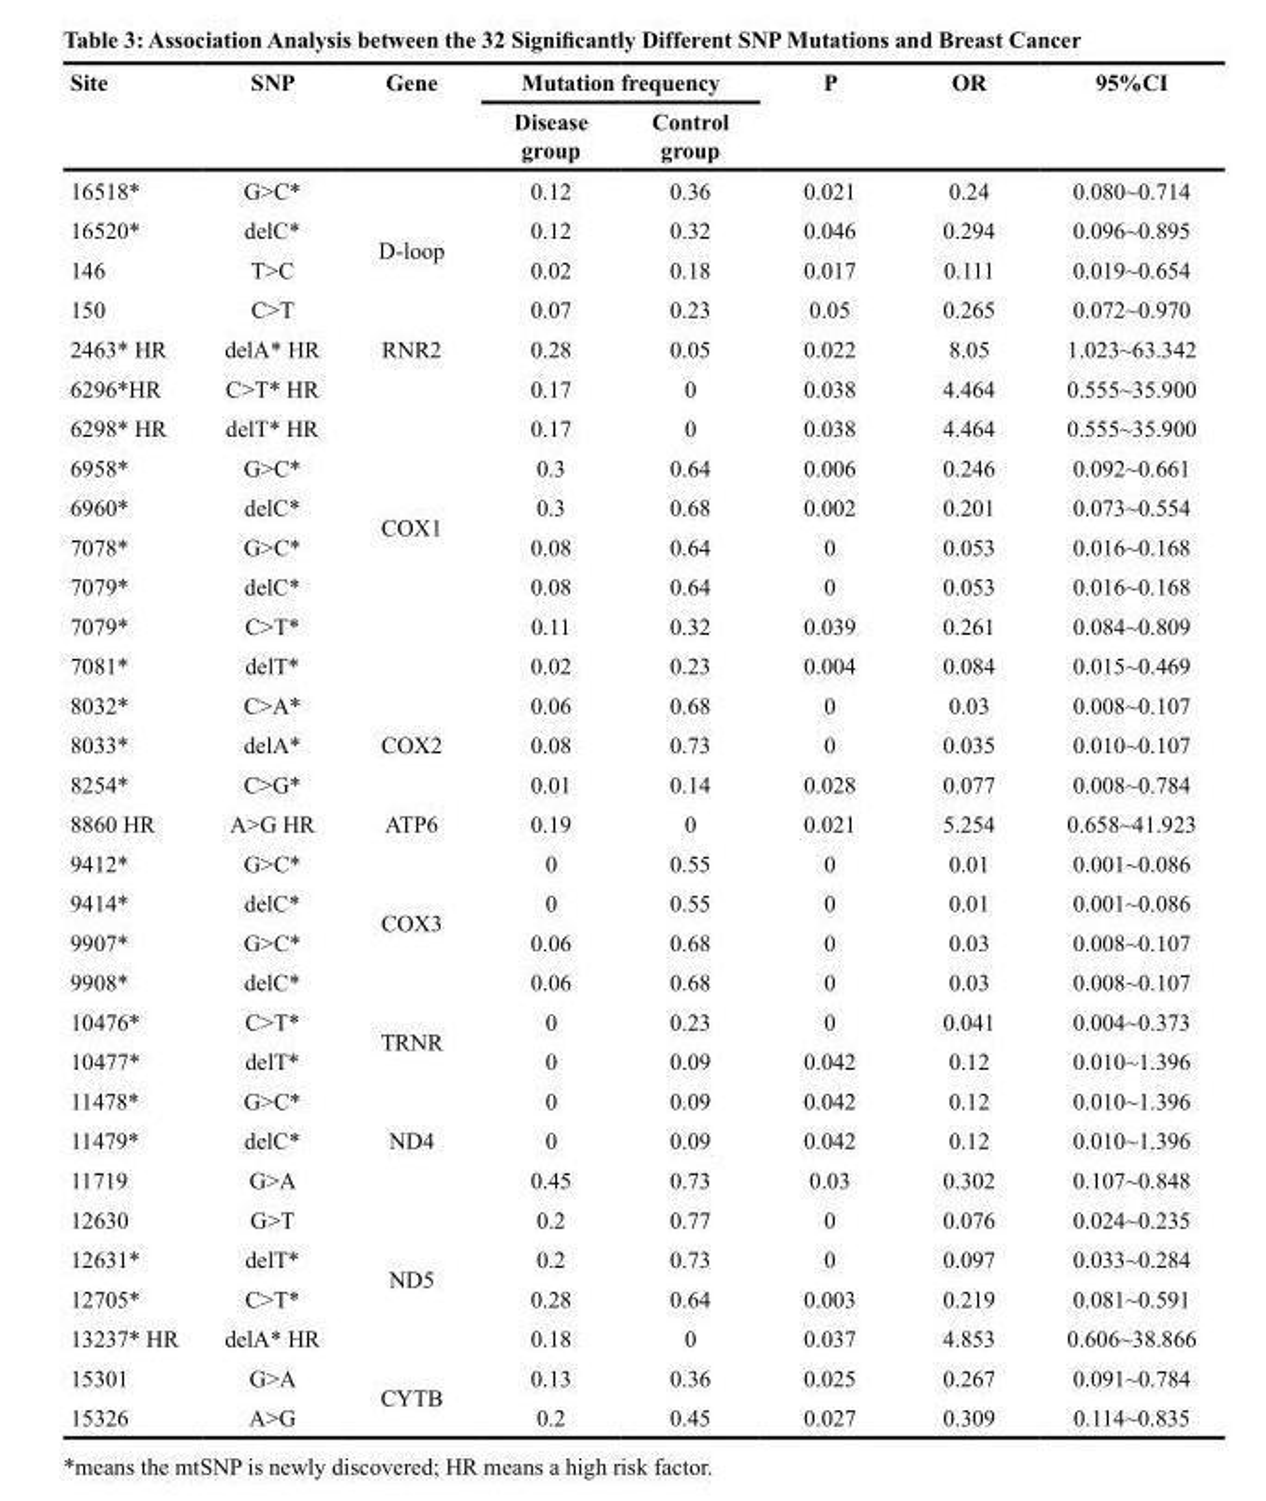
<table><thead><tr><td rowspan="2">Site</td><td rowspan="2">SNP</td><td rowspan="2">Gene</td><td colspan="2">Mutation frequency</td><td rowspan="2">P</td><td rowspan="2">OR</td><td rowspan="2">95%CI</td></tr><tr><td>Disease group</td><td>Control group</td></tr></thead><tbody><tr><td>16518*</td><td>G&gt;C*</td><td rowspan="4">D-loop</td><td>0.12</td><td>0.36</td><td>0.021</td><td>0.24</td><td>0.080~0.714</td></tr><tr><td>16520*</td><td>delC*</td><td>0.12</td><td>0.32</td><td>0.046</td><td>0.294</td><td>0.096~0.895</td></tr><tr><td>146</td><td>T&gt;C</td><td>0.02</td><td>0.18</td><td>0.017</td><td>0.111</td><td>0.019~0.654</td></tr><tr><td>150</td><td>C&gt;T</td><td>0.07</td><td>0.23</td><td>0.05</td><td>0.265</td><td>0.072~0.970</td></tr><tr><td>2463* HR</td><td>delA* HR</td><td>RNR2</td><td>0.28</td><td>0.05</td><td>0.022</td><td>8.05</td><td>1.023~63.342</td></tr><tr><td>6296*HR</td><td>C&gt;T* HR</td><td rowspan="8">COX1</td><td>0.17</td><td>0</td><td>0.038</td><td>4.464</td><td>0.555~35.900</td></tr><tr><td>6298* HR</td><td>delT* HR</td><td>0.17</td><td>0</td><td>0.038</td><td>4.464</td><td>0.555~35.900</td></tr><tr><td>6958*</td><td>G&gt;C*</td><td>0.3</td><td>0.64</td><td>0.006</td><td>0.246</td><td>0.092~0.661</td></tr><tr><td>6960*</td><td>delC*</td><td>0.3</td><td>0.68</td><td>0.002</td><td>0.201</td><td>0.073~0.554</td></tr><tr><td>7078*</td><td>G&gt;C*</td><td>0.08</td><td>0.64</td><td>0</td><td>0.053</td><td>0.016~0.168</td></tr><tr><td>7079*</td><td>delC*</td><td>0.08</td><td>0.64</td><td>0</td><td>0.053</td><td>0.016~0.168</td></tr><tr><td>7079*</td><td>C&gt;T*</td><td>0.11</td><td>0.32</td><td>0.039</td><td>0.261</td><td>0.084~0.809</td></tr><tr><td>7081*</td><td>delT*</td><td>0.02</td><td>0.23</td><td>0.004</td><td>0.084</td><td>0.015~0.469</td></tr><tr><td>8032*</td><td>C&gt;A*</td><td rowspan="3">COX2</td><td>0.06</td><td>0.68</td><td>0</td><td>0.03</td><td>0.008~0.107</td></tr><tr><td>8033*</td><td>delA*</td><td>0.08</td><td>0.73</td><td>0</td><td>0.035</td><td>0.010~0.107</td></tr><tr><td>8254*</td><td>C&gt;G*</td><td>0.01</td><td>0.14</td><td>0.028</td><td>0.077</td><td>0.008~0.784</td></tr><tr><td>8860 HR</td><td>A&gt;G HR</td><td>ATP6</td><td>0.19</td><td>0</td><td>0.021</td><td>5.254</td><td>0.658~41.923</td></tr><tr><td>9412*</td><td>G&gt;C*</td><td rowspan="4">COX3</td><td>0</td><td>0.55</td><td>0</td><td>0.01</td><td>0.001~0.086</td></tr><tr><td>9414*</td><td>delC*</td><td>0</td><td>0.55</td><td>0</td><td>0.01</td><td>0.001~0.086</td></tr><tr><td>9907*</td><td>G&gt;C*</td><td>0.06</td><td>0.68</td><td>0</td><td>0.03</td><td>0.008~0.107</td></tr><tr><td>9908*</td><td>delC*</td><td>0.06</td><td>0.68</td><td>0</td><td>0.03</td><td>0.008~0.107</td></tr><tr><td>10476*</td><td>C&gt;T*</td><td rowspan="2">TRNR</td><td>0</td><td>0.23</td><td>0</td><td>0.041</td><td>0.004~0.373</td></tr><tr><td>10477*</td><td>delT*</td><td>0</td><td>0.09</td><td>0.042</td><td>0.12</td><td>0.010~1.396</td></tr><tr><td>11478*</td><td>G&gt;C*</td><td rowspan="3">ND4</td><td>0</td><td>0.09</td><td>0.042</td><td>0.12</td><td>0.010~1.396</td></tr><tr><td>11479*</td><td>delC*</td><td>0</td><td>0.09</td><td>0.042</td><td>0.12</td><td>0.010~1.396</td></tr><tr><td>11719</td><td>G&gt;A</td><td>0.45</td><td>0.73</td><td>0.03</td><td>0.302</td><td>0.107~0.848</td></tr><tr><td>12630</td><td>G&gt;T</td><td rowspan="4">ND5</td><td>0.2</td><td>0.77</td><td>0</td><td>0.076</td><td>0.024~0.235</td></tr><tr><td>12631*</td><td>delT*</td><td>0.2</td><td>0.73</td><td>0</td><td>0.097</td><td>0.033~0.284</td></tr><tr><td>12705*</td><td>C&gt;T*</td><td>0.28</td><td>0.64</td><td>0.003</td><td>0.219</td><td>0.081~0.591</td></tr><tr><td>13237* HR</td><td>delA* HR</td><td>0.18</td><td>0</td><td>0.037</td><td>4.853</td><td>0.606~38.866</td></tr><tr><td>15301</td><td>G&gt;A</td><td rowspan="2">CYTB</td><td>0.13</td><td>0.36</td><td>0.025</td><td>0.267</td><td>0.091~0.784</td></tr><tr><td>15326</td><td>A&gt;G</td><td>0.2</td><td>0.45</td><td>0.027</td><td>0.309</td><td>0.114~0.835</td></tr></tbody></table>